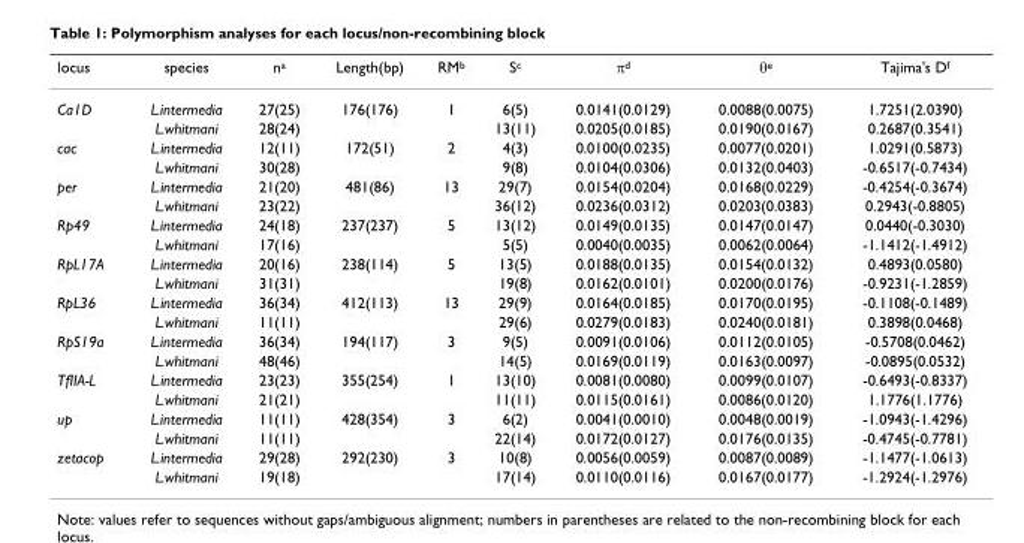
<table><thead><tr><td>locus</td><td>species</td><td>n<sup>a</sup></td><td>Length(bp)</td><td>RM<sup>b</sup></td><td>S<sup>c</sup></td><td>π<sup>d</sup></td><td>θ<sup>e</sup></td><td>Tajima&#x27;s D<sup>f</sup></td></tr></thead><tbody><tr><td rowspan="2">Ca1D</td><td>L.intermedia</td><td>27(25)</td><td>176(176)</td><td>1</td><td>6(5)</td><td>0.0141(0.0129)</td><td>0.0088(0.0075)</td><td>1.7251(2.0390)</td></tr><tr><td>L.whitmani</td><td>28(24)</td><td></td><td></td><td>13(11)</td><td>0.0205(0.0185)</td><td>0.0190(0.0167)</td><td>0.2687(0.3541)</td></tr><tr><td rowspan="2">cac</td><td>L.intermedia</td><td>12(11)</td><td>172(51)</td><td>2</td><td>4(3)</td><td>0.0100(0.0235)</td><td>0.0077(0.0201)</td><td>1.0291(0.5873)</td></tr><tr><td>L.whitmani</td><td>30(28)</td><td></td><td></td><td>9(8)</td><td>0.0104(0.0306)</td><td>0.0132(0.0403)</td><td>-0.6517(-0.7434)</td></tr><tr><td rowspan="2">per</td><td>L.intermedia</td><td>21(20)</td><td>481(86)</td><td>13</td><td>29(7)</td><td>0.0154(0.0204)</td><td>0.0168(0.0229)</td><td>-0.4254(-0.3674)</td></tr><tr><td>L.whitmani</td><td>23(22)</td><td></td><td></td><td>36(12)</td><td>0.0236(0.0312)</td><td>0.0203(0.0383)</td><td>0.2943(-0.8805)</td></tr><tr><td rowspan="2">Rp49</td><td>L.intermedia</td><td>24(18)</td><td>237(237)</td><td>5</td><td>13(12)</td><td>0.0149(0.0135)</td><td>0.0147(0.0147)</td><td>0.0440(-0.3030)</td></tr><tr><td>L.whitmani</td><td>17(16)</td><td></td><td></td><td>5(5)</td><td>0.0040(0.0035)</td><td>0.0062(0.0064)</td><td>-1.1412(-1.4912)</td></tr><tr><td rowspan="2">RpL17A</td><td>L.intermedia</td><td>20(16)</td><td>238(114)</td><td>5</td><td>13(5)</td><td>0.0188(0.0135)</td><td>0.0154(0.0132)</td><td>0.4893(0.0580)</td></tr><tr><td>L.whitmani</td><td>31(31)</td><td></td><td></td><td>19(8)</td><td>0.0162(0.0101)</td><td>0.0200(0.0176)</td><td>-0.9231(-1.2859)</td></tr><tr><td rowspan="2">RpL36</td><td>L.intermedia</td><td>36(34)</td><td>412(113)</td><td>13</td><td>29(9)</td><td>0.0164(0.0185)</td><td>0.0170(0.0195)</td><td>-0.1108(-0.1489)</td></tr><tr><td>L.whitmani</td><td>11(11)</td><td></td><td></td><td>29(6)</td><td>0.0279(0.0183)</td><td>0.0240(0.0181)</td><td>0.3898(0.0468)</td></tr><tr><td rowspan="2">RpS19a</td><td>L.intermedia</td><td>36(34)</td><td>194(117)</td><td>3</td><td>9(5)</td><td>0.0091(0.0106)</td><td>0.0112(0.0105)</td><td>-0.5708(0.0462)</td></tr><tr><td>L.whitmani</td><td>48(46)</td><td></td><td></td><td>14(5)</td><td>0.0169(0.0119)</td><td>0.0163(0.0097)</td><td>-0.0895(0.0532)</td></tr><tr><td rowspan="2">TfIIA-L</td><td>L.intermedia</td><td>23(23)</td><td>355(254)</td><td>1</td><td>13(10)</td><td>0.0081(0.0080)</td><td>0.0099(0.0107)</td><td>-0.6493(-0.8337)</td></tr><tr><td>L.whitmani</td><td>21(21)</td><td></td><td></td><td>11(11)</td><td>0.0115(0.0161)</td><td>0.0086(0.0120)</td><td>1.1776(1.1776)</td></tr><tr><td rowspan="2">up</td><td>L.intermedia</td><td>11(11)</td><td>428(354)</td><td>3</td><td>6(2)</td><td>0.0041(0.0010)</td><td>0.0048(0.0019)</td><td>-1.0943(-1.4296)</td></tr><tr><td>L.whitmani</td><td>11(11)</td><td></td><td></td><td>22(14)</td><td>0.0172(0.0127)</td><td>0.0176(0.0135)</td><td>-0.4745(-0.7781)</td></tr><tr><td rowspan="2">zetacop</td><td>L.intermedia</td><td>29(28)</td><td>292(230)</td><td>3</td><td>10(8)</td><td>0.0056(0.0059)</td><td>0.0087(0.0089)</td><td>-1.1477(-1.0613)</td></tr><tr><td>L.whitmani</td><td>19(18)</td><td></td><td></td><td>17(14)</td><td>0.0110(0.0116)</td><td>0.0167(0.0177)</td><td>-1.2924(-1.2976)</td></tr></tbody></table>